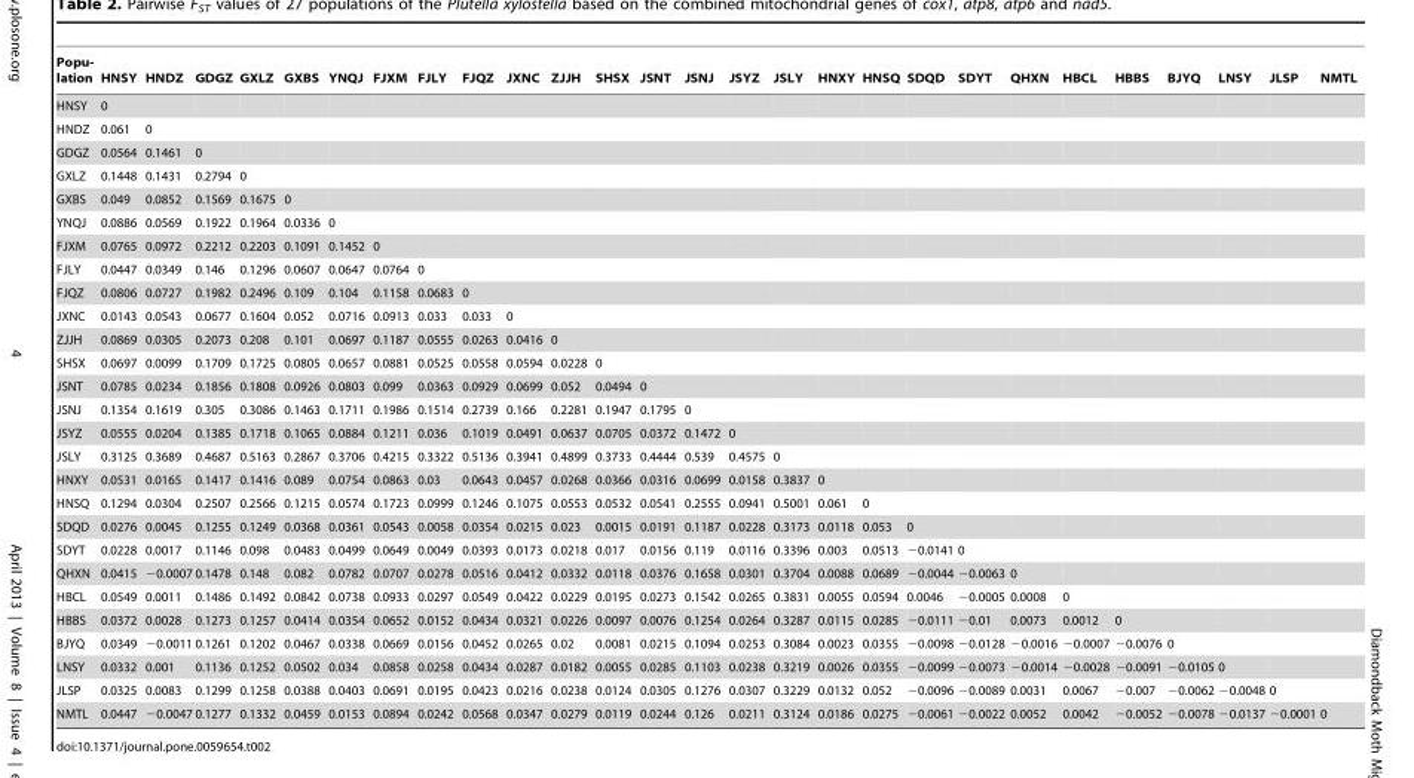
<table><thead><tr><td>Popu- lation</td><td>HNSY</td><td>HNDZ</td><td>GDGZ</td><td>GXLZ</td><td>GXBS</td><td>YNQJ</td><td>FJXM</td><td>FJLY</td><td>FJQZ</td><td>JXNC</td><td>ZJJH</td><td>SHSX</td><td>JSNT</td><td>JSNJ</td><td>JSYZ</td><td>JSLY</td><td>HNXY</td><td>HNSQ</td><td>SDQD</td><td>SDYT</td><td>QHXN</td><td>HBCL</td><td>HBBS</td><td>BJYQ</td><td>LNSY</td><td>JLSP</td><td>NMTL</td></tr></thead><tbody><tr><td>HNSY</td><td>0</td><td></td><td></td><td></td><td></td><td></td><td></td><td></td><td></td><td></td><td></td><td></td><td></td><td></td><td></td><td></td><td></td><td></td><td></td><td></td><td></td><td></td><td></td><td></td><td></td><td></td><td></td></tr><tr><td>HNDZ</td><td>0.061</td><td>0</td><td></td><td></td><td></td><td></td><td></td><td></td><td></td><td></td><td></td><td></td><td></td><td></td><td></td><td></td><td></td><td></td><td></td><td></td><td></td><td></td><td></td><td></td><td></td><td></td><td></td></tr><tr><td>GDGZ</td><td>0.0564</td><td>0.1461</td><td>0</td><td></td><td></td><td></td><td></td><td></td><td></td><td></td><td></td><td></td><td></td><td></td><td></td><td></td><td></td><td></td><td></td><td></td><td></td><td></td><td></td><td></td><td></td><td></td><td></td></tr><tr><td>GXLZ</td><td>0.1448</td><td>0.1431</td><td>0.2794</td><td>0</td><td></td><td></td><td></td><td></td><td></td><td></td><td></td><td></td><td></td><td></td><td></td><td></td><td></td><td></td><td></td><td></td><td></td><td></td><td></td><td></td><td></td><td></td><td></td></tr><tr><td>GXBS</td><td>0.049</td><td>0.0852</td><td>0.1569</td><td>0.1675</td><td>0</td><td></td><td></td><td></td><td></td><td></td><td></td><td></td><td></td><td></td><td></td><td></td><td></td><td></td><td></td><td></td><td></td><td></td><td></td><td></td><td></td><td></td><td></td></tr><tr><td>YNQJ</td><td>0.0886</td><td>0.0569</td><td>0.1922</td><td>0.1964</td><td>0.0336</td><td>0</td><td></td><td></td><td></td><td></td><td></td><td></td><td></td><td></td><td></td><td></td><td></td><td></td><td></td><td></td><td></td><td></td><td></td><td></td><td></td><td></td><td></td></tr><tr><td>FJXM</td><td>0.0765</td><td>0.0972</td><td>0.2212</td><td>0.2203</td><td>0.1091</td><td>0.1452</td><td>0</td><td></td><td></td><td></td><td></td><td></td><td></td><td></td><td></td><td></td><td></td><td></td><td></td><td></td><td></td><td></td><td></td><td></td><td></td><td></td><td></td></tr><tr><td>FJLY</td><td>0.0447</td><td>0.0349</td><td>0.146</td><td>0.1296</td><td>0.0607</td><td>0.0647</td><td>0.0764</td><td>0</td><td></td><td></td><td></td><td></td><td></td><td></td><td></td><td></td><td></td><td></td><td></td><td></td><td></td><td></td><td></td><td></td><td></td><td></td><td></td></tr><tr><td>FJQZ</td><td>0.0806</td><td>0.0727</td><td>0.1982</td><td>0.2496</td><td>0.109</td><td>0.104</td><td>0.1158</td><td>0.0683</td><td>0</td><td></td><td></td><td></td><td></td><td></td><td></td><td></td><td></td><td></td><td></td><td></td><td></td><td></td><td></td><td></td><td></td><td></td><td></td></tr><tr><td>JXNC</td><td>0.0143</td><td>0.0543</td><td>0.0677</td><td>0.1604</td><td>0.052</td><td>0.0716</td><td>0.0913</td><td>0.033</td><td>0.033</td><td>0</td><td></td><td></td><td></td><td></td><td></td><td></td><td></td><td></td><td></td><td></td><td></td><td></td><td></td><td></td><td></td><td></td><td></td></tr><tr><td>ZJJH</td><td>0.0869</td><td>0.0305</td><td>0.2073</td><td>0.208</td><td>0.101</td><td>0.0697</td><td>0.1187</td><td>0.0555</td><td>0.0263</td><td>0.0416</td><td>0</td><td></td><td></td><td></td><td></td><td></td><td></td><td></td><td></td><td></td><td></td><td></td><td></td><td></td><td></td><td></td><td></td></tr><tr><td>SHSX</td><td>0.0697</td><td>0.0099</td><td>0.1709</td><td>0.1725</td><td>0.0805</td><td>0.0657</td><td>0.0881</td><td>0.0525</td><td>0.0558</td><td>0.0594</td><td>0.0228</td><td>0</td><td></td><td></td><td></td><td></td><td></td><td></td><td></td><td></td><td></td><td></td><td></td><td></td><td></td><td></td><td></td></tr><tr><td>JSNT</td><td>0.0785</td><td>0.0234</td><td>0.1856</td><td>0.1808</td><td>0.0926</td><td>0.0803</td><td>0.099</td><td>0.0363</td><td>0.0929</td><td>0.0699</td><td>0.052</td><td>0.0494</td><td>0</td><td></td><td></td><td></td><td></td><td></td><td></td><td></td><td></td><td></td><td></td><td></td><td></td><td></td><td></td></tr><tr><td>JSNJ</td><td>0.1354</td><td>0.1619</td><td>0.305</td><td>0.3086</td><td>0.1463</td><td>0.1711</td><td>0.1986</td><td>0.1514</td><td>0.2739</td><td>0.166</td><td>0.2281</td><td>0.1947</td><td>0.1795</td><td>0</td><td></td><td></td><td></td><td></td><td></td><td></td><td></td><td></td><td></td><td></td><td></td><td></td><td></td></tr><tr><td>JSYZ</td><td>0.0555</td><td>0.0204</td><td>0.1385</td><td>0.1718</td><td>0.1065</td><td>0.0884</td><td>0.1211</td><td>0.036</td><td>0.1019</td><td>0.0491</td><td>0.0637</td><td>0.0705</td><td>0.0372</td><td>0.1472</td><td>0</td><td></td><td></td><td></td><td></td><td></td><td></td><td></td><td></td><td></td><td></td><td></td><td></td></tr><tr><td>JSLY</td><td>0.3125</td><td>0.3689</td><td>0.4687</td><td>0.5163</td><td>0.2867</td><td>0.3706</td><td>0.4215</td><td>0.3322</td><td>0.5136</td><td>0.3941</td><td>0.4899</td><td>0.3733</td><td>0.4444</td><td>0.539</td><td>0.4575</td><td>0</td><td></td><td></td><td></td><td></td><td></td><td></td><td></td><td></td><td></td><td></td><td></td></tr><tr><td>HNXY</td><td>0.0531</td><td>0.0165</td><td>0.1417</td><td>0.1416</td><td>0.089</td><td>0.0754</td><td>0.0863</td><td>0.03</td><td>0.0643</td><td>0.0457</td><td>0.0268</td><td>0.0366</td><td>0.0316</td><td>0.0699</td><td>0.0158</td><td>0.3837</td><td>0</td><td></td><td></td><td></td><td></td><td></td><td></td><td></td><td></td><td></td><td></td></tr><tr><td>HNSQ</td><td>0.1294</td><td>0.0304</td><td>0.2507</td><td>0.2566</td><td>0.1215</td><td>0.0574</td><td>0.1723</td><td>0.0999</td><td>0.1246</td><td>0.1075</td><td>0.0553</td><td>0.0532</td><td>0.0541</td><td>0.2555</td><td>0.0941</td><td>0.5001</td><td>0.061</td><td>0</td><td></td><td></td><td></td><td></td><td></td><td></td><td></td><td></td><td></td></tr><tr><td>SDQD</td><td>0.0276</td><td>0.0045</td><td>0.1255</td><td>0.1249</td><td>0.0368</td><td>0.0361</td><td>0.0543</td><td>0.0058</td><td>0.0354</td><td>0.0215</td><td>0.023</td><td>0.0015</td><td>0.0191</td><td>0.1187</td><td>0.0228</td><td>0.3173</td><td>0.0118</td><td>0.053</td><td>0</td><td></td><td></td><td></td><td></td><td></td><td></td><td></td><td></td></tr><tr><td>SDYT</td><td>0.0228</td><td>0.0017</td><td>0.1146</td><td>0.098</td><td>0.0483</td><td>0.0499</td><td>0.0649</td><td>0.0049</td><td>0.0393</td><td>0.0173</td><td>0.0218</td><td>0.017</td><td>0.0156</td><td>0.119</td><td>0.0116</td><td>0.3396</td><td>0.003</td><td>0.0513</td><td>−0.0141</td><td>0</td><td></td><td></td><td></td><td></td><td></td><td></td><td></td></tr><tr><td>QHXN</td><td>0.0415</td><td>−0.0007</td><td>0.1478</td><td>0.148</td><td>0.082</td><td>0.0782</td><td>0.0707</td><td>0.0278</td><td>0.0516</td><td>0.0412</td><td>0.0332</td><td>0.0118</td><td>0.0376</td><td>0.1658</td><td>0.0301</td><td>0.3704</td><td>0.0088</td><td>0.0689</td><td>−0.0044</td><td>−0.0063</td><td>0</td><td></td><td></td><td></td><td></td><td></td><td></td></tr><tr><td>HBCL</td><td>0.0549</td><td>0.0011</td><td>0.1486</td><td>0.1492</td><td>0.0842</td><td>0.0738</td><td>0.0933</td><td>0.0297</td><td>0.0549</td><td>0.0422</td><td>0.0229</td><td>0.0195</td><td>0.0273</td><td>0.1542</td><td>0.0265</td><td>0.3831</td><td>0.0055</td><td>0.0594</td><td>0.0046</td><td>−0.0005</td><td>0.0008</td><td>0</td><td></td><td></td><td></td><td></td><td></td></tr><tr><td>HBBS</td><td>0.0372</td><td>0.0028</td><td>0.1273</td><td>0.1257</td><td>0.0414</td><td>0.0354</td><td>0.0652</td><td>0.0152</td><td>0.0434</td><td>0.0321</td><td>0.0226</td><td>0.0097</td><td>0.0076</td><td>0.1254</td><td>0.0264</td><td>0.3287</td><td>0.0115</td><td>0.0285</td><td>−0.0111</td><td>−0.01</td><td>0.0073</td><td>0.0012</td><td>0</td><td></td><td></td><td></td><td></td></tr><tr><td>BJYQ</td><td>0.0349</td><td>−0.0011</td><td>0.1261</td><td>0.1202</td><td>0.0467</td><td>0.0338</td><td>0.0669</td><td>0.0156</td><td>0.0452</td><td>0.0265</td><td>0.02</td><td>0.0081</td><td>0.0215</td><td>0.1094</td><td>0.0253</td><td>0.3084</td><td>0.0023</td><td>0.0355</td><td>−0.0098</td><td>−0.0128</td><td>−0.0016</td><td>−0.0007</td><td>−0.0076</td><td>0</td><td></td><td></td><td></td></tr><tr><td>LNSY</td><td>0.0332</td><td>0.001</td><td>0.1136</td><td>0.1252</td><td>0.0502</td><td>0.034</td><td>0.0858</td><td>0.0258</td><td>0.0434</td><td>0.0287</td><td>0.0182</td><td>0.0055</td><td>0.0285</td><td>0.1103</td><td>0.0238</td><td>0.3219</td><td>0.0026</td><td>0.0355</td><td>−0.0099</td><td>−0.0073</td><td>−0.0014</td><td>−0.0028</td><td>−0.0091</td><td>−0.0105</td><td>0</td><td></td><td></td></tr><tr><td>JLSP</td><td>0.0325</td><td>0.0083</td><td>0.1299</td><td>0.1258</td><td>0.0388</td><td>0.0403</td><td>0.0691</td><td>0.0195</td><td>0.0423</td><td>0.0216</td><td>0.0238</td><td>0.0124</td><td>0.0305</td><td>0.1276</td><td>0.0307</td><td>0.3229</td><td>0.0132</td><td>0.052</td><td>−0.0096</td><td>−0.0089</td><td>0.0031</td><td>0.0067</td><td>−0.007</td><td>−0.0062</td><td>−0.0048</td><td>0</td><td></td></tr><tr><td>NMTL</td><td>0.0447</td><td>−0.0047</td><td>0.1277</td><td>0.1332</td><td>0.0459</td><td>0.0153</td><td>0.0894</td><td>0.0242</td><td>0.0568</td><td>0.0347</td><td>0.0279</td><td>0.0119</td><td>0.0244</td><td>0.126</td><td>0.0211</td><td>0.3124</td><td>0.0186</td><td>0.0275</td><td>−0.0061</td><td>−0.0022</td><td>0.0052</td><td>0.0042</td><td>−0.0052</td><td>−0.0078</td><td>−0.0137</td><td>−0.0001</td><td>0</td></tr></tbody></table>